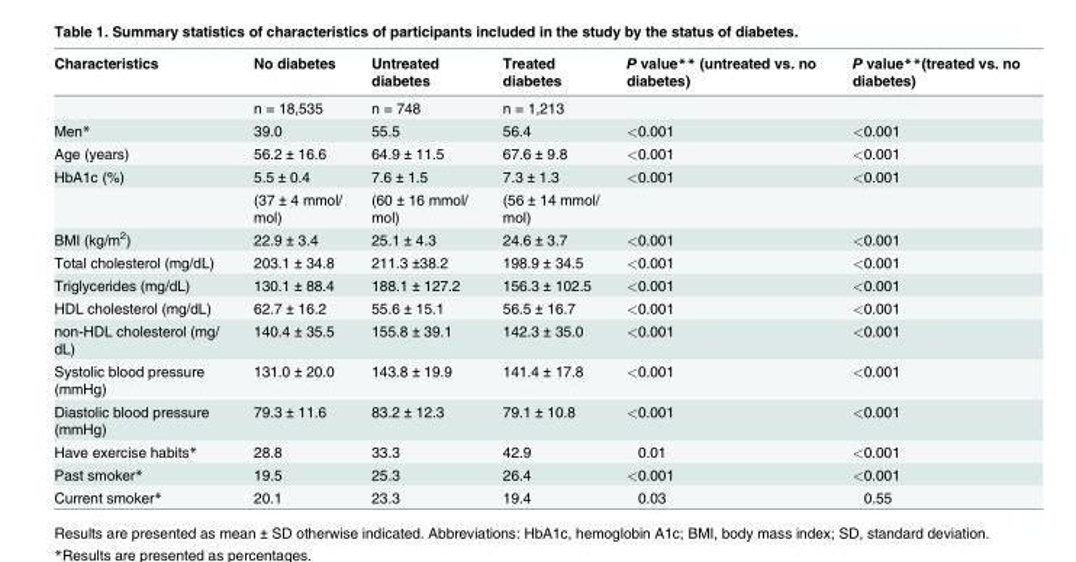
<table><thead><tr><td>Characteristics</td><td>No diabetes</td><td>Untreated diabetes</td><td>Treated diabetes</td><td>P value** (untreated vs. no diabetes)</td><td>P value**(treated vs. no diabetes)</td></tr></thead><tbody><tr><td></td><td>n = 18,535</td><td>n = 748</td><td>n = 1,213</td><td></td><td></td></tr><tr><td>Men*</td><td>39.0</td><td>55.5</td><td>56.4</td><td>&lt;0.001</td><td>&lt;0.001</td></tr><tr><td>Age (years)</td><td>56.2 ± 16.6</td><td>64.9 ± 11.5</td><td>67.6 ± 9.8</td><td>&lt;0.001</td><td>&lt;0.001</td></tr><tr><td rowspan="2">HbA1c (%)</td><td>5.5 ± 0.4</td><td>7.6 ± 1.5</td><td>7.3 ± 1.3</td><td>&lt;0.001</td><td>&lt;0.001</td></tr><tr><td>(37 ± 4 mmol/ mol)</td><td>(60 ± 16 mmol/ mol)</td><td>(56 ± 14 mmol/ mol)</td><td></td><td></td></tr><tr><td>BMI (kg/m<sup>2</sup>)</td><td>22.9 ± 3.4</td><td>25.1 ± 4.3</td><td>24.6 ± 3.7</td><td>&lt;0.001</td><td>&lt;0.001</td></tr><tr><td>Total cholesterol (mg/dL)</td><td>203.1 ± 34.8</td><td>211.3 ±38.2</td><td>198.9 ± 34.5</td><td>&lt;0.001</td><td>&lt;0.001</td></tr><tr><td>Triglycerides (mg/dL)</td><td>130.1 ± 88.4</td><td>188.1 ± 127.2</td><td>156.3 ± 102.5</td><td>&lt;0.001</td><td>&lt;0.001</td></tr><tr><td>HDL cholesterol (mg/dL)</td><td>62.7 ± 16.2</td><td>55.6 ± 15.1</td><td>56.5 ± 16.7</td><td>&lt;0.001</td><td>&lt;0.001</td></tr><tr><td>non-HDL cholesterol (mg/ dL)</td><td>140.4 ± 35.5</td><td>155.8 ± 39.1</td><td>142.3 ± 35.0</td><td>&lt;0.001</td><td>&lt;0.001</td></tr><tr><td>Systolic blood pressure (mmHg)</td><td>131.0 ± 20.0</td><td>143.8 ± 19.9</td><td>141.4 ± 17.8</td><td>&lt;0.001</td><td>&lt;0.001</td></tr><tr><td>Diastolic blood pressure (mmHg)</td><td>79.3 ± 11.6</td><td>83.2 ± 12.3</td><td>79.1 ± 10.8</td><td>&lt;0.001</td><td>&lt;0.001</td></tr><tr><td>Have exercise habits*</td><td>28.8</td><td>33.3</td><td>42.9</td><td>0.01</td><td>&lt;0.001</td></tr><tr><td>Past smoker*</td><td>19.5</td><td>25.3</td><td>26.4</td><td>&lt;0.001</td><td>&lt;0.001</td></tr><tr><td>Current smoker*</td><td>20.1</td><td>23.3</td><td>19.4</td><td>0.03</td><td>0.55</td></tr></tbody></table>